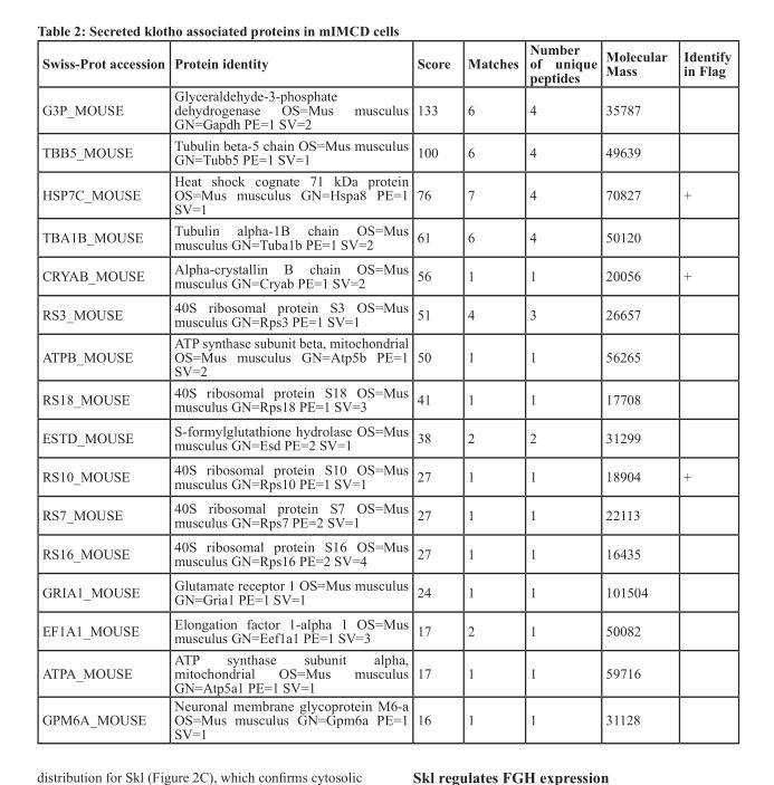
<table><thead><tr><td>Swiss-Prot accession</td><td>Protein identity</td><td>Score</td><td>Matches</td><td>Number of unique peptides</td><td>Molecular Mass</td><td>Identify in Flag</td></tr></thead><tbody><tr><td>G3P_MOUSE</td><td>Glyceraldehyde-3-phosphate dehydrogenase OS=Mus musculus GN=Gapdh PE=1 SV=2</td><td>133</td><td>6</td><td>4</td><td>35787</td><td></td></tr><tr><td>TBB5_MOUSE</td><td>Tubulin beta-5 chain OS=Mus musculus GN=Tubb5 PE=1 SV=1</td><td>100</td><td>6</td><td>4</td><td>49639</td><td></td></tr><tr><td>HSP7C_MOUSE</td><td>Heat shock cognate 71 kDa protein OS=Mus musculus GN=Hspa8 PE=1 SV=1</td><td>76</td><td>7</td><td>4</td><td>70827</td><td>+</td></tr><tr><td>TBA1B_MOUSE</td><td>Tubulin alpha-1B chain OS=Mus musculus GN=Tuba1b PE=1 SV=2</td><td>61</td><td>6</td><td>4</td><td>50120</td><td></td></tr><tr><td>CRYAB_MOUSE</td><td>Alpha-crystallin B chain OS=Mus musculus GN=Cryab PE=1 SV=2</td><td>56</td><td>1</td><td>1</td><td>20056</td><td>+</td></tr><tr><td>RS3_MOUSE</td><td>40S ribosomal protein S3 OS=Mus musculus GN=Rps3 PE=1 SV=1</td><td>51</td><td>4</td><td>3</td><td>26657</td><td></td></tr><tr><td>ATPB_MOUSE</td><td>ATP synthase subunit beta, mitochondrial OS=Mus musculus GN=Atp5b PE=1 SV=2</td><td>50</td><td>1</td><td>1</td><td>56265</td><td></td></tr><tr><td>RS18_MOUSE</td><td>40S ribosomal protein S18 OS=Mus musculus GN=Rps18 PE=1 SV=3</td><td>41</td><td>1</td><td>1</td><td>17708</td><td></td></tr><tr><td>ESTD_MOUSE</td><td>S-formylglutathione hydrolase OS=Mus musculus GN=Esd PE=2 SV=1</td><td>38</td><td>2</td><td>2</td><td>31299</td><td></td></tr><tr><td>RS10_MOUSE</td><td>40S ribosomal protein S10 OS=Mus musculus GN=Rps10 PE=1 SV=1</td><td>27</td><td>1</td><td>1</td><td>18904</td><td>+</td></tr><tr><td>RS7_MOUSE</td><td>40S ribosomal protein S7 OS=Mus musculus GN=Rps7 PE=2 SV=1</td><td>27</td><td>1</td><td>1</td><td>22113</td><td></td></tr><tr><td>RS16_MOUSE</td><td>40S ribosomal protein S16 OS=Mus musculus GN=Rps16 PE=2 SV=4</td><td>27</td><td>1</td><td>1</td><td>16435</td><td></td></tr><tr><td>GRIA1_MOUSE</td><td>Glutamate receptor 1 OS=Mus musculus GN=Gria1 PE=1 SV=1</td><td>24</td><td>1</td><td>1</td><td>101504</td><td></td></tr><tr><td>EF1A1_MOUSE</td><td>Elongation factor 1-alpha 1 OS=Mus musculus GN=Eef1a1 PE=1 SV=3</td><td>17</td><td>2</td><td>1</td><td>50082</td><td></td></tr><tr><td>ATPA_MOUSE</td><td>ATP synthase subunit alpha, mitochondrial OS=Mus musculus GN=Atp5a1 PE=1 SV=1</td><td>17</td><td>1</td><td>1</td><td>59716</td><td></td></tr><tr><td>GPM6A_MOUSE</td><td>Neuronal membrane glycoprotein M6-a OS=Mus musculus GN=Gpm6a PE=1 SV=1</td><td>16</td><td>1</td><td>1</td><td>31128</td><td></td></tr></tbody></table>